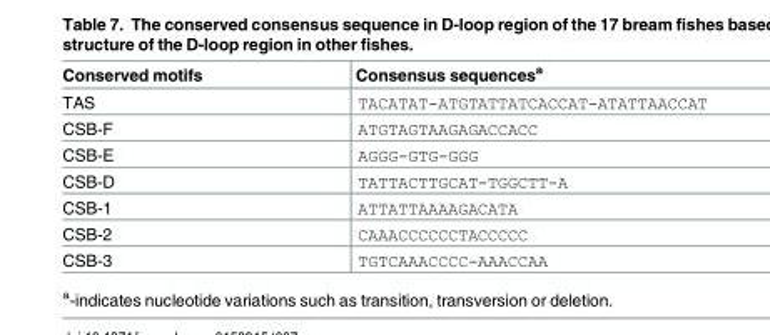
<table><thead><tr><td>Conserved motifs</td><td>Consensus sequences<sup>a</sup></td></tr></thead><tbody><tr><td>TAS</td><td>TACATAT-ATGTATTATCACCAT-ATATTAACCAT</td></tr><tr><td>CSB-F</td><td>ATGTAGTAAGAGACCACC</td></tr><tr><td>CSB-E</td><td>AGGG-GTG-GGG</td></tr><tr><td>CSB-D</td><td>TATTACTTGCAT-TGGCTT-A</td></tr><tr><td>CSB-1</td><td>ATTATTAAAAGACATA</td></tr><tr><td>CSB-2</td><td>CAAACCCCCCTACCCCC</td></tr><tr><td>CSB-3</td><td>TGTCAAACCCC-AAACCAA</td></tr></tbody></table>